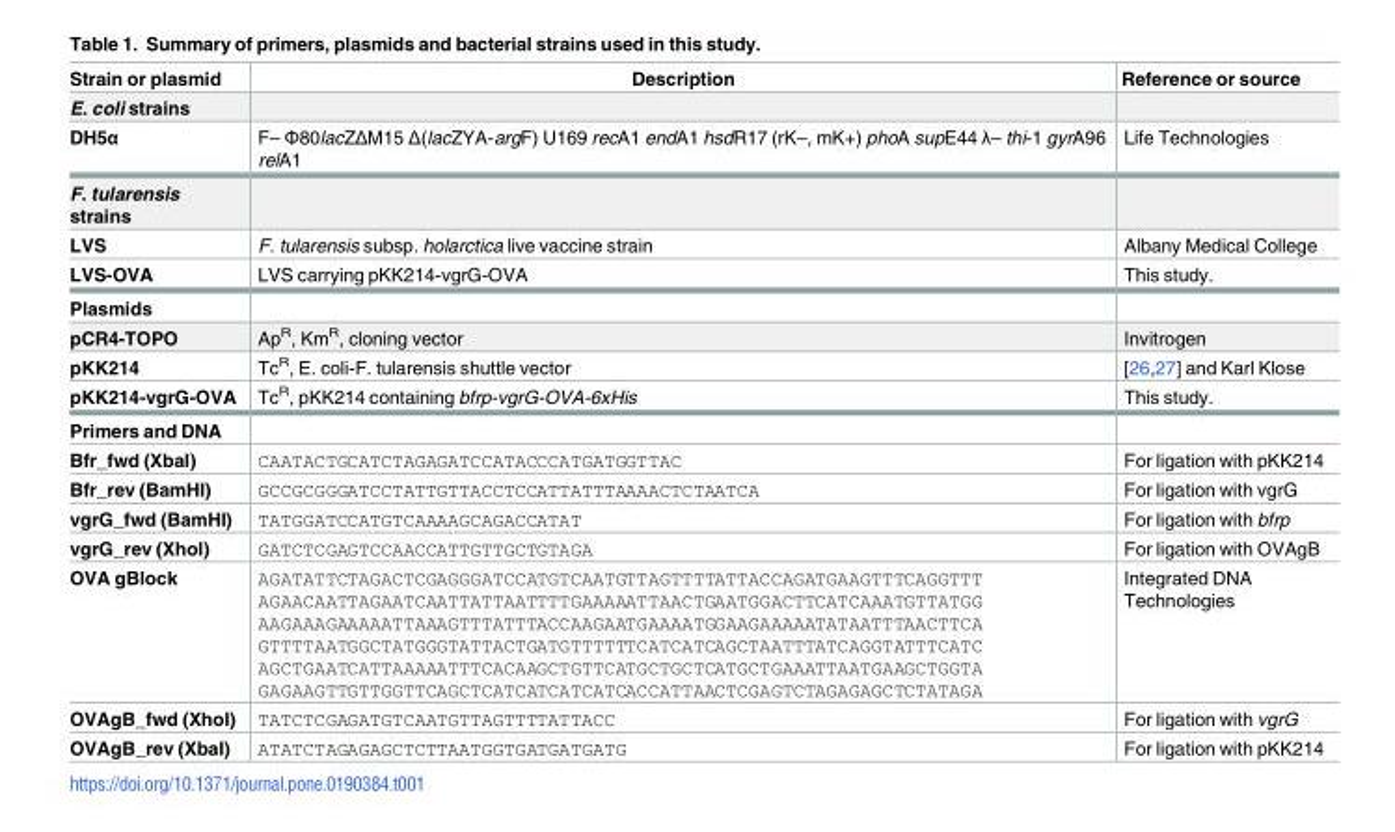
<table><thead><tr><td>Strain or plasmid</td><td>Description</td><td>Reference or source</td></tr></thead><tbody><tr><td colspan="3">E. coli strains</td></tr><tr><td>DH5α</td><td>F– Φ80lacZΔM15 Δ(lacZYA-argF) U169 recA1 endA1 hsdR17 (rK–, mK+) phoA supE44 λ– thi-1 gyrA96 relA1</td><td>Life Technologies</td></tr><tr><td colspan="3">F. tularensis strains</td></tr><tr><td>LVS</td><td>F. tularensis subsp. holarctica live vaccine strain</td><td>Albany Medical College</td></tr><tr><td>LVS-OVA</td><td>LVS carrying pKK214-vgrG-OVA</td><td>This study.</td></tr><tr><td colspan="3">Plasmids</td></tr><tr><td>pCR4-TOPO</td><td>Ap<sup>R</sup>, Km<sup>R</sup>, cloning vector</td><td>Invitrogen</td></tr><tr><td>pKK214</td><td>Tc<sup>R</sup>, E. coli-F. tularensis shuttle vector</td><td>[26,27] and Karl Klose</td></tr><tr><td>pKK214-vgrG-OVA</td><td>Tc<sup>R</sup>, pKK214 containing bfrp-vgrG-OVA-6xHis</td><td>This study.</td></tr><tr><td colspan="3">Primers and DNA</td></tr><tr><td>Bfr_fwd (XbaI)</td><td>CAATACTGCATCTAGAGATCCATACCCATGATGGTTAC</td><td>For ligation with pKK214</td></tr><tr><td>Bfr_rev (BamHI)</td><td>GCCGCGGGATCCTATTGTTACCTCCATTATTTAAAACTCTAATCA</td><td>For ligation with vgrG</td></tr><tr><td>vgrG_fwd (BamHI)</td><td>TATGGATCCATGTCAAAAGCAGACCATAT</td><td>For ligation with bfrp</td></tr><tr><td>vgrG_rev (XhoI)</td><td>GATCTCGAGTCCAACCATTGTTGCTGTAGA</td><td>For ligation with OVAgB</td></tr><tr><td>OVA gBlock</td><td>AGATATTCTAGACTCGAGGGATCCATGTCAATGTTAGTTTTATTACCAGATGAAGTTTCAGGTTT AGAACAATTAGAATCAATTATTAATTTTGAAAAATTAACTGAATGGACTTCATCAAATGTTATGG AAGAAAGAAAAATTAAAGTTTATTTACCAAGAATGAAAATGGAAGAAAAATATAATTTAACTTCA GTTTTAATGGCTATGGGTATTACTGATGTTTTTTCATCATCAGCTAATTTATCAGGTATTTCATC AGCTGAATCATTAAAAATTTCACAAGCTGTTCATGCTGCTCATGCTGAAATTAATGAAGCTGGTA GAGAAGTTGTTGGTTCAGCTCATCATCATCATCACCATTAACTCGAGTCTAGAGAGCTCTATAGA</td><td>Integrated DNA Technologies</td></tr><tr><td>OVAgB_fwd (XhoI)</td><td>TATCTCGAGATGTCAATGTTAGTTTTATTACC</td><td>For ligation with vgrG</td></tr><tr><td>OVAgB_rev (XbaI)</td><td>ATATCTAGAGAGCTCTTAATGGTGATGATGATG</td><td>For ligation with pKK214</td></tr></tbody></table>